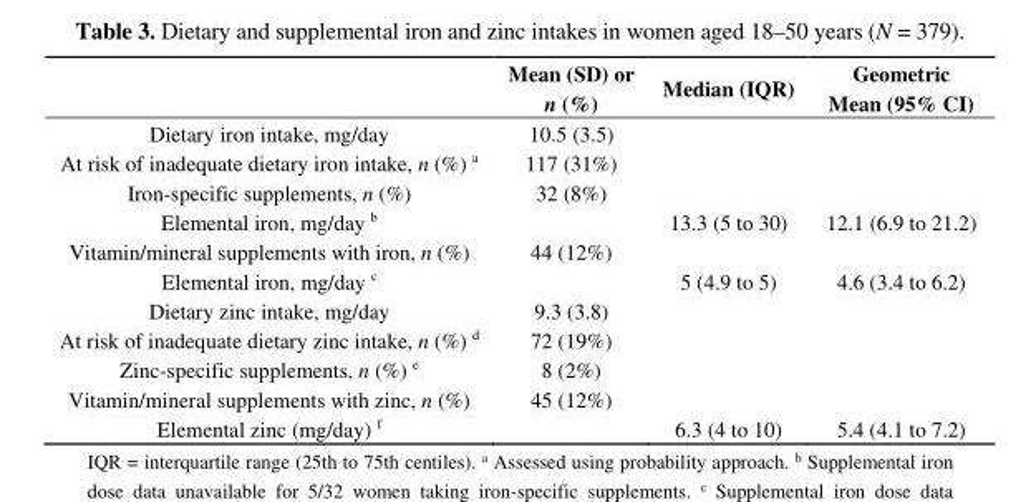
<table><thead><tr><td></td><td>Mean (SD) or n (%)</td><td>Median (IQR)</td><td>Geometric Mean (95% CI)</td></tr></thead><tbody><tr><td>Dietary iron intake, mg/day</td><td>10.5 (3.5)</td><td></td><td></td></tr><tr><td>At risk of inadequate dietary iron intake, n (%) <sup>a</sup></td><td>117 (31%)</td><td></td><td></td></tr><tr><td>Iron-specific supplements, n (%)</td><td>32 (8%)</td><td></td><td></td></tr><tr><td>Elemental iron, mg/day <sup>b</sup></td><td></td><td>13.3 (5 to 30)</td><td>12.1 (6.9 to 21.2)</td></tr><tr><td>Vitamin/mineral supplements with iron, n (%)</td><td>44 (12%)</td><td></td><td></td></tr><tr><td>Elemental iron, mg/day <sup>c</sup></td><td></td><td>5 (4.9 to 5)</td><td>4.6 (3.4 to 6.2)</td></tr><tr><td>Dietary zinc intake, mg/day</td><td>9.3 (3.8)</td><td></td><td></td></tr><tr><td>At risk of inadequate dietary zinc intake, n (%) <sup>d</sup></td><td>72 (19%)</td><td></td><td></td></tr><tr><td>Zinc-specific supplements, n (%) <sup>e</sup></td><td>8 (2%)</td><td></td><td></td></tr><tr><td>Vitamin/mineral supplements with zinc, n (%)</td><td>45 (12%)</td><td></td><td></td></tr><tr><td>Elemental zinc (mg/day) <sup>f</sup></td><td></td><td>6.3 (4 to 10)</td><td>5.4 (4.1 to 7.2)</td></tr></tbody></table>